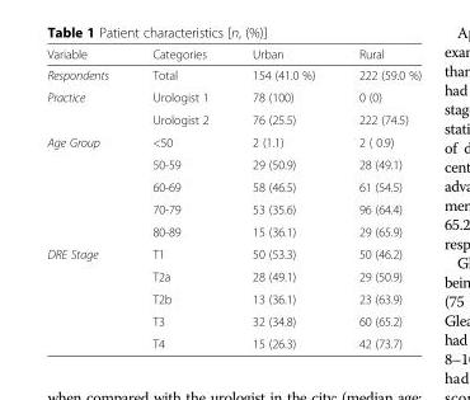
<table><thead><tr><td>Variable</td><td>Categories</td><td>Urban</td><td>Rural</td></tr></thead><tbody><tr><td>Respondents</td><td>Total</td><td>154 (41.0 %)</td><td>222 (59.0 %)</td></tr><tr><td rowspan="2">Practice</td><td>Urologist 1</td><td>78 (100)</td><td>0 (0)</td></tr><tr><td>Urologist 2</td><td>76 (25.5)</td><td>222 (74.5)</td></tr><tr><td rowspan="5">Age Group</td><td>&lt;50</td><td>2 (1.1)</td><td>2 ( 0.9)</td></tr><tr><td>50-59</td><td>29 (50.9)</td><td>28 (49.1)</td></tr><tr><td>60-69</td><td>58 (46.5)</td><td>61 (54.5)</td></tr><tr><td>70-79</td><td>53 (35.6)</td><td>96 (64.4)</td></tr><tr><td>80-89</td><td>15 (36.1)</td><td>29 (65.9)</td></tr><tr><td rowspan="5">DRE Stage</td><td>T1</td><td>50 (53.3)</td><td>50 (46.2)</td></tr><tr><td>T2a</td><td>28 (49.1)</td><td>29 (50.9)</td></tr><tr><td>T2b</td><td>13 (36.1)</td><td>23 (63.9)</td></tr><tr><td>T3</td><td>32 (34.8)</td><td>60 (65.2)</td></tr><tr><td>T4</td><td>15 (26.3)</td><td>42 (73.7)</td></tr></tbody></table>